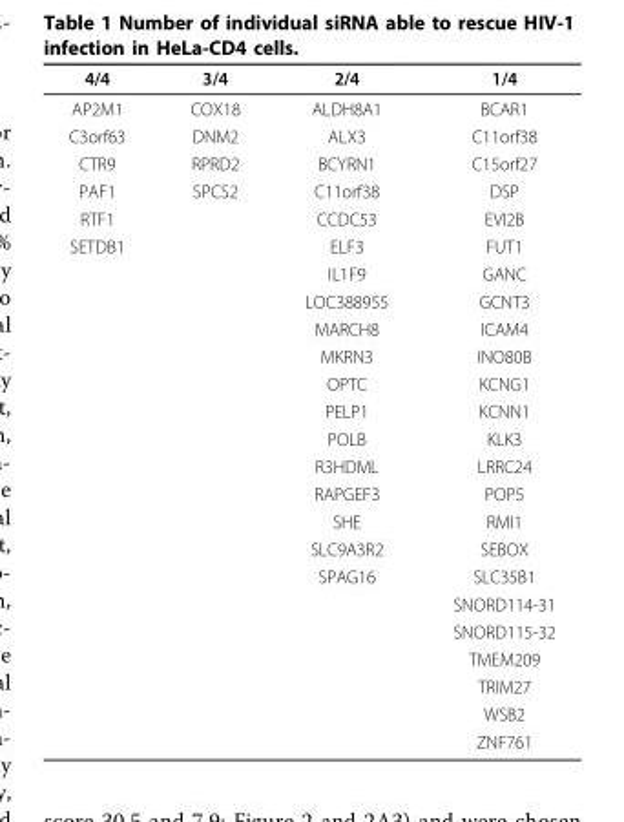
<table><thead><tr><td>4/4</td><td>3/4</td><td>2/4</td><td>1/4</td></tr></thead><tbody><tr><td>AP2M1</td><td>COX18</td><td>ALDH8A1</td><td>BCAR1</td></tr><tr><td>C3orf63</td><td>DNM2</td><td>ALX3</td><td>C11orf38</td></tr><tr><td>CTR9</td><td>RPRD2</td><td>BCYRN1</td><td>C15orf27</td></tr><tr><td>PAF1</td><td>SPCS2</td><td>C11orf38</td><td>DSP</td></tr><tr><td>RTF1</td><td></td><td>CCDC53</td><td>EVI2B</td></tr><tr><td rowspan="19">SETDB1</td><td></td><td>ELF3</td><td>FUT1</td></tr><tr><td></td><td>IL1F9</td><td>GANC</td></tr><tr><td></td><td>LOC388955</td><td>GCNT3</td></tr><tr><td></td><td>MARCH8</td><td>ICAM4</td></tr><tr><td></td><td>MKRN3</td><td>INO80B</td></tr><tr><td></td><td>OPTC</td><td>KCNG1</td></tr><tr><td></td><td>PELP1</td><td>KCNN1</td></tr><tr><td></td><td>POLB</td><td>KLK3</td></tr><tr><td></td><td>R3HDML</td><td>LRRC24</td></tr><tr><td></td><td>RAPGEF3</td><td>POP5</td></tr><tr><td></td><td>SHE</td><td>RMI1</td></tr><tr><td></td><td>SLC9A3R2</td><td>SEBOX</td></tr><tr><td></td><td>SPAG16</td><td>SLC35B1</td></tr><tr><td></td><td></td><td>SNORD114-31</td></tr><tr><td></td><td></td><td>SNORD115-32</td></tr><tr><td></td><td></td><td>TMEM209</td></tr><tr><td></td><td></td><td>TRIM27</td></tr><tr><td></td><td></td><td>WSB2</td></tr><tr><td></td><td></td><td>ZNF761</td></tr></tbody></table>